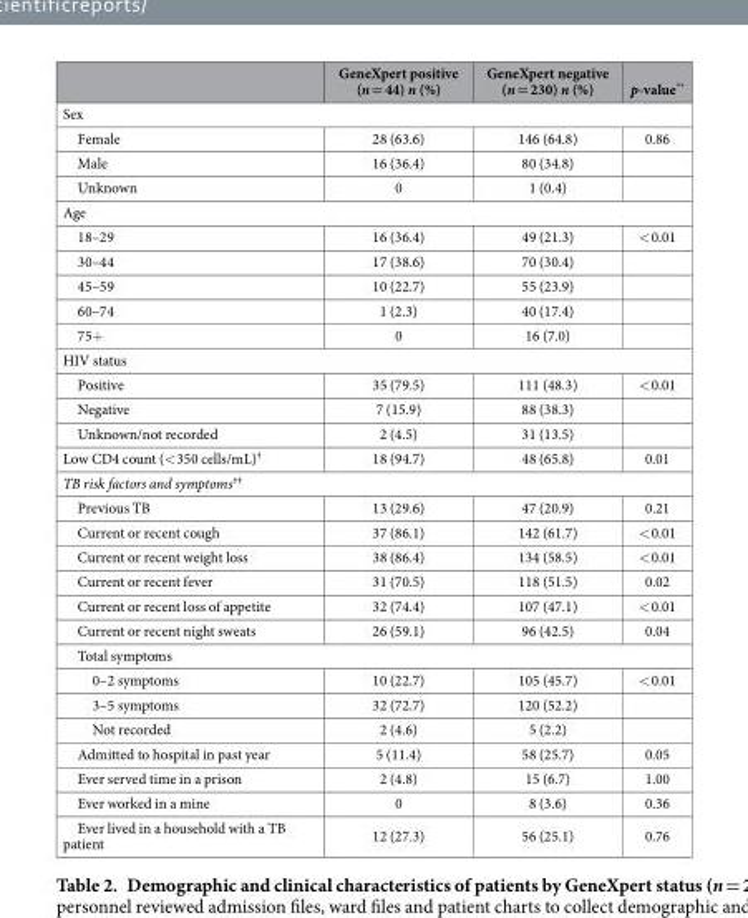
<table><thead><tr><td></td><td>GeneXpert positive (n = 44) n (%)</td><td>GeneXpert negative (n = 230) n (%)</td><td>p-value**</td></tr></thead><tbody><tr><td colspan="4">Sex</td></tr><tr><td>Female</td><td>28 (63.6)</td><td>146 (64.8)</td><td>0.86</td></tr><tr><td>Male</td><td>16 (36.4)</td><td>80 (34.8)</td><td></td></tr><tr><td>Unknown</td><td>0</td><td>1 (0.4)</td><td></td></tr><tr><td colspan="4">Age</td></tr><tr><td>18–29</td><td>16 (36.4)</td><td>49 (21.3)</td><td>&lt; 0.01</td></tr><tr><td>30–44</td><td>17 (38.6)</td><td>70 (30.4)</td><td></td></tr><tr><td>45–59</td><td>10 (22.7)</td><td>55 (23.9)</td><td></td></tr><tr><td>60–74</td><td>1 (2.3)</td><td>40 (17.4)</td><td></td></tr><tr><td>75+</td><td>0</td><td>16 (7.0)</td><td></td></tr><tr><td colspan="4">HIV status</td></tr><tr><td>Positive</td><td>35 (79.5)</td><td>111 (48.3)</td><td>&lt; 0.01</td></tr><tr><td>Negative</td><td>7 (15.9)</td><td>88 (38.3)</td><td></td></tr><tr><td>Unknown/not recorded</td><td>2 (4.5)</td><td>31 (13.5)</td><td></td></tr><tr><td>Low CD4 count (&lt; 350 cells/mL)†</td><td>18 (94.7)</td><td>48 (65.8)</td><td>0.01</td></tr><tr><td colspan="4">TB risk factors and symptoms††</td></tr><tr><td>Previous TB</td><td>13 (29.6)</td><td>47 (20.9)</td><td>0.21</td></tr><tr><td>Current or recent cough</td><td>37 (86.1)</td><td>142 (61.7)</td><td>&lt; 0.01</td></tr><tr><td>Current or recent weight loss</td><td>38 (86.4)</td><td>134 (58.5)</td><td>&lt; 0.01</td></tr><tr><td>Current or recent fever</td><td>31 (70.5)</td><td>118 (51.5)</td><td>0.02</td></tr><tr><td>Current or recent loss of appetite</td><td>32 (74.4)</td><td>107 (47.1)</td><td>&lt; 0.01</td></tr><tr><td>Current or recent night sweats</td><td>26 (59.1)</td><td>96 (42.5)</td><td>0.04</td></tr><tr><td colspan="4">Total symptoms</td></tr><tr><td>0–2 symptoms</td><td>10 (22.7)</td><td>105 (45.7)</td><td>&lt; 0.01</td></tr><tr><td>3–5 symptoms</td><td>32 (72.7)</td><td>120 (52.2)</td><td></td></tr><tr><td>Not recorded</td><td>2 (4.6)</td><td>5 (2.2)</td><td></td></tr><tr><td>Admitted to hospital in past year</td><td>5 (11.4)</td><td>58 (25.7)</td><td>0.05</td></tr><tr><td>Ever served time in a prison</td><td>2 (4.8)</td><td>15 (6.7)</td><td>1.00</td></tr><tr><td>Ever worked in a mine</td><td>0</td><td>8 (3.6)</td><td>0.36</td></tr><tr><td>Ever lived in a household with a TB patient</td><td>12 (27.3)</td><td>56 (25.1)</td><td>0.76</td></tr></tbody></table>